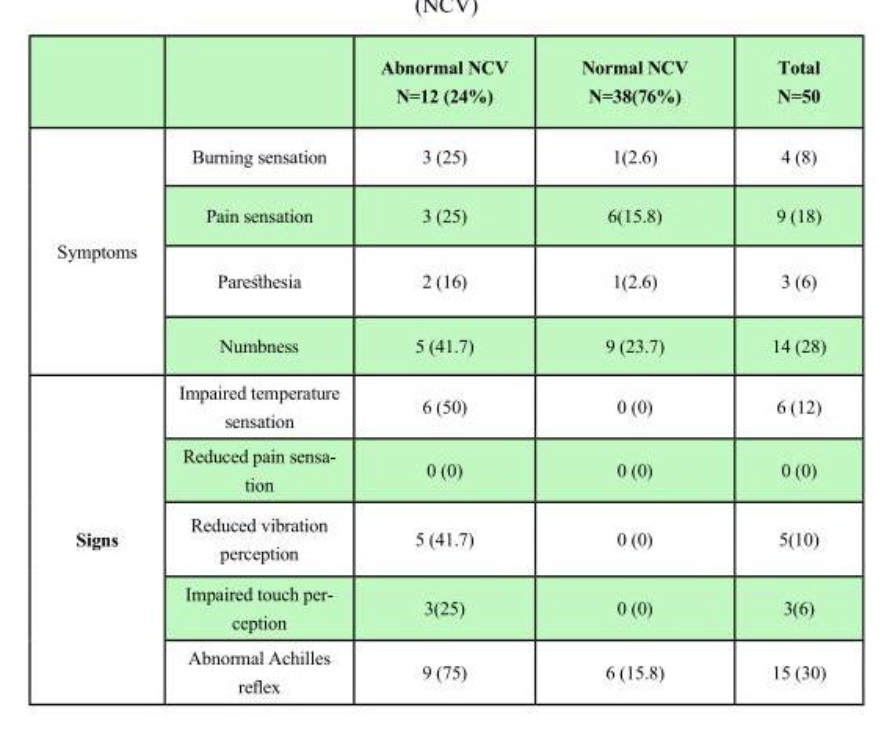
<table><thead><tr><td></td><td></td><td>Abnormal NCV N=12 (24%)</td><td>Normal NCV N=38(76%)</td><td>Total N=50</td></tr></thead><tbody><tr><td rowspan="4">Symptoms</td><td>Burning sensation</td><td>3 (25)</td><td>1(2.6)</td><td>4 (8)</td></tr><tr><td>Pain sensation</td><td>3 (25)</td><td>6(15.8)</td><td>9 (18)</td></tr><tr><td>Paresthesia</td><td>2 (16)</td><td>1(2.6)</td><td>3 (6)</td></tr><tr><td>Numbness</td><td>5 (41.7)</td><td>9 (23.7)</td><td>14 (28)</td></tr><tr><td rowspan="5">Signs</td><td>Impaired temperature sensation</td><td>6 (50)</td><td>0 (0)</td><td>6 (12)</td></tr><tr><td>Reduced pain sensa- tion</td><td>0 (0)</td><td>0 (0)</td><td>0 (0)</td></tr><tr><td>Reduced vibration perception</td><td>5 (41.7)</td><td>0 (0)</td><td>5(10)</td></tr><tr><td>Impaired touch per- ception</td><td>3(25)</td><td>0 (0)</td><td>3(6)</td></tr><tr><td>Abnormal Achilles reflex</td><td>9 (75)</td><td>6 (15.8)</td><td>15 (30)</td></tr></tbody></table>